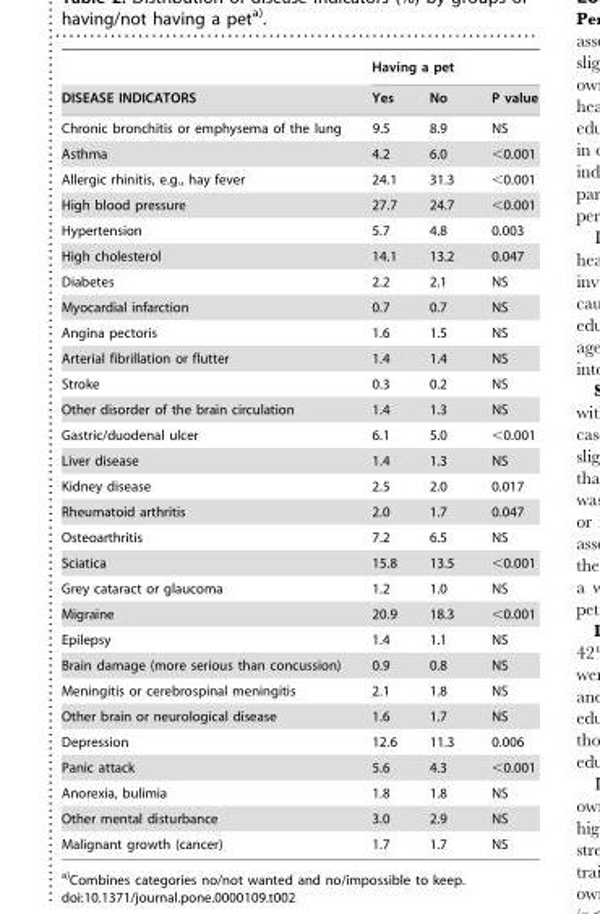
<table><thead><tr><td rowspan="2">DISEASE INDICATORS</td><td colspan="3">Having a pet</td></tr><tr><td>Yes</td><td>No</td><td>P value</td></tr></thead><tbody><tr><td>Chronic bronchitis or emphysema of the lung</td><td>9.5</td><td>8.9</td><td>NS</td></tr><tr><td>Asthma</td><td>4.2</td><td>6.0</td><td>&lt;0.001</td></tr><tr><td>Allergic rhinitis, e.g., hay fever</td><td>24.1</td><td>31.3</td><td>&lt;0.001</td></tr><tr><td>High blood pressure</td><td>27.7</td><td>24.7</td><td>&lt;0.001</td></tr><tr><td>Hypertension</td><td>5.7</td><td>4.8</td><td>0.003</td></tr><tr><td>High cholesterol</td><td>14.1</td><td>13.2</td><td>0.047</td></tr><tr><td>Diabetes</td><td>2.2</td><td>2.1</td><td>NS</td></tr><tr><td>Myocardial infarction</td><td>0.7</td><td>0.7</td><td>NS</td></tr><tr><td>Angina pectoris</td><td>1.6</td><td>1.5</td><td>NS</td></tr><tr><td>Arterial fibrillation or flutter</td><td>1.4</td><td>1.4</td><td>NS</td></tr><tr><td>Stroke</td><td>0.3</td><td>0.2</td><td>NS</td></tr><tr><td>Other disorder of the brain circulation</td><td>1.4</td><td>1.3</td><td>NS</td></tr><tr><td>Gastric/duodenal ulcer</td><td>6.1</td><td>5.0</td><td>&lt;0.001</td></tr><tr><td>Liver disease</td><td>1.4</td><td>1.3</td><td>NS</td></tr><tr><td>Kidney disease</td><td>2.5</td><td>2.0</td><td>0.017</td></tr><tr><td>Rheumatoid arthritis</td><td>2.0</td><td>1.7</td><td>0.047</td></tr><tr><td>Osteoarthritis</td><td>7.2</td><td>6.5</td><td>NS</td></tr><tr><td>Sciatica</td><td>15.8</td><td>13.5</td><td>&lt;0.001</td></tr><tr><td>Grey cataract or glaucoma</td><td>1.2</td><td>1.0</td><td>NS</td></tr><tr><td>Migraine</td><td>20.9</td><td>18.3</td><td>&lt;0.001</td></tr><tr><td>Epilepsy</td><td>1.4</td><td>1.1</td><td>NS</td></tr><tr><td>Brain damage (more serious than concussion)</td><td>0.9</td><td>0.8</td><td>NS</td></tr><tr><td>Meningitis or cerebrospinal meningitis</td><td>2.1</td><td>1.8</td><td>NS</td></tr><tr><td>Other brain or neurological disease</td><td>1.6</td><td>1.7</td><td>NS</td></tr><tr><td>Depression</td><td>12.6</td><td>11.3</td><td>0.006</td></tr><tr><td>Panic attack</td><td>5.6</td><td>4.3</td><td>&lt;0.001</td></tr><tr><td>Anorexia, bulimia</td><td>1.8</td><td>1.8</td><td>NS</td></tr><tr><td>Other mental disturbance</td><td>3.0</td><td>2.9</td><td>NS</td></tr><tr><td>Malignant growth (cancer)</td><td>1.7</td><td>1.7</td><td>NS</td></tr></tbody></table>